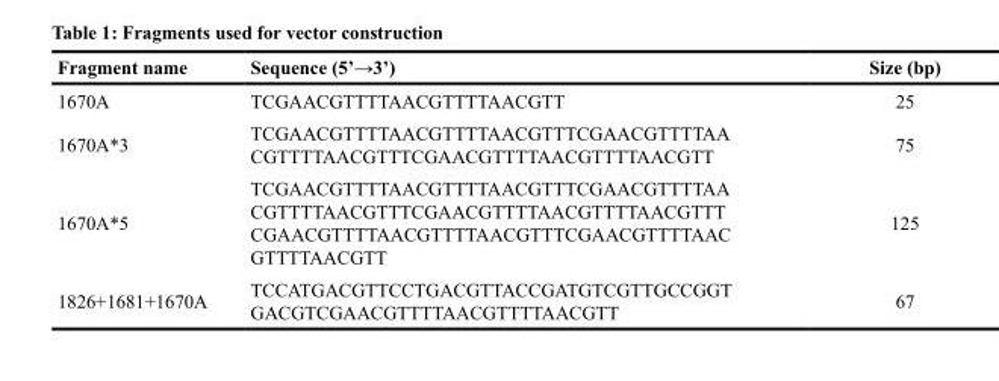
<table><thead><tr><td>Fragment name</td><td>Sequence (5’→3’)</td><td>Size (bp)</td></tr></thead><tbody><tr><td>1670A</td><td>TCGAACGTTTTAACGTTTTAACGTT</td><td>25</td></tr><tr><td>1670A*3</td><td>TCGAACGTTTTAACGTTTTAACGTTTCGAACGTTTTAA CGTTTTAACGTTTCGAACGTTTTAACGTTTTAACGTT</td><td>75</td></tr><tr><td>1670A*5</td><td>TCGAACGTTTTAACGTTTTAACGTTTCGAACGTTTTAA CGTTTTAACGTTTCGAACGTTTTAACGTTTTAACGTTT CGAACGTTTTAACGTTTTAACGTTTCGAACGTTTTAAC GTTTTAACGTT</td><td>125</td></tr><tr><td>1826+1681+1670A</td><td>TCCATGACGTTCCTGACGTTACCGATGTCGTTGCCGGT GACGTCGAACGTTTTAACGTTTTAACGTT</td><td>67</td></tr></tbody></table>